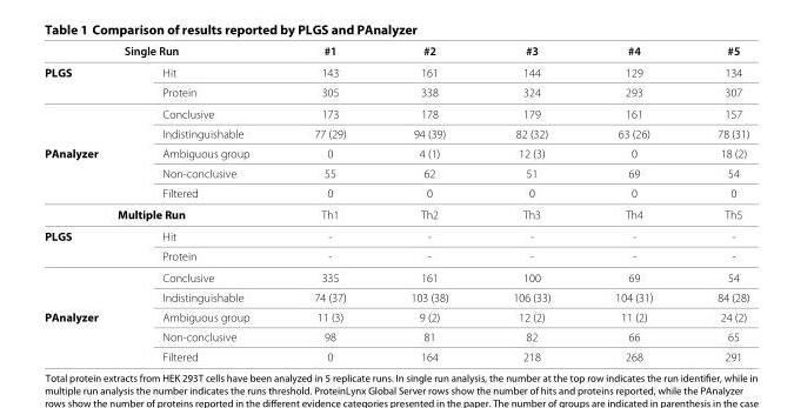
<table><thead><tr><td colspan="2">Single Run</td><td rowspan="2">#1 143</td><td rowspan="2">#2 161</td><td rowspan="2">#3 144</td><td rowspan="2">#4 129</td><td rowspan="2">#5 134</td></tr><tr><td>PLGS</td><td>Hit</td></tr></thead><tbody><tr><td></td><td>Protein</td><td>305</td><td>338</td><td>324</td><td>293</td><td>307</td></tr><tr><td></td><td>Conclusive</td><td>173</td><td>178</td><td>179</td><td>161</td><td>157</td></tr><tr><td></td><td>Indistinguishable</td><td>77 (29)</td><td>94 (39)</td><td>82 (32)</td><td>63 (26)</td><td>78 (31)</td></tr><tr><td rowspan="3">PAnalyzer</td><td>Ambiguous group</td><td>0</td><td>4 (1)</td><td>12 (3)</td><td>0</td><td>18 (2)</td></tr><tr><td>Non-conclusive</td><td>55</td><td>62</td><td>51</td><td>69</td><td>54</td></tr><tr><td>Filtered</td><td>0</td><td>0</td><td>0</td><td>0</td><td>0</td></tr><tr><td colspan="2">Multiple Run</td><td>Th1</td><td>Th2</td><td>Th3</td><td>Th4</td><td>Th5</td></tr><tr><td rowspan="4">PLGS</td><td>Hit</td><td>-</td><td>-</td><td>-</td><td>-</td><td>-</td></tr><tr><td>Protein</td><td>-</td><td>-</td><td>-</td><td>-</td><td>-</td></tr><tr><td>Conclusive</td><td>335</td><td>161</td><td>100</td><td>69</td><td>54</td></tr><tr><td>Indistinguishable</td><td>74 (37)</td><td>103 (38)</td><td>106 (33)</td><td>104 (31)</td><td>84 (28)</td></tr><tr><td rowspan="3">PAnalyzer</td><td>Ambiguous group</td><td>11 (3)</td><td>9 (2)</td><td>12 (2)</td><td>11 (2)</td><td>24 (2)</td></tr><tr><td>Non-conclusive</td><td>98</td><td>81</td><td>82</td><td>66</td><td>65</td></tr><tr><td>Filtered</td><td>0</td><td>164</td><td>218</td><td>268</td><td>291</td></tr></tbody></table>